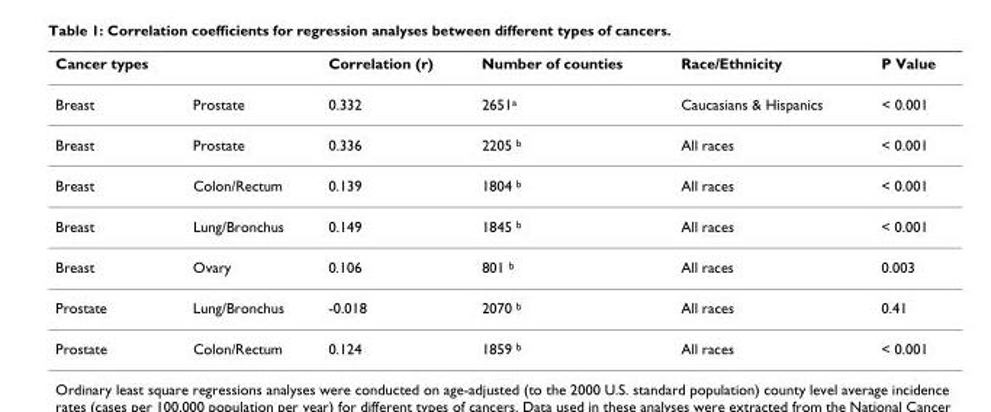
<table><thead><tr><td>Cancer types</td><td></td><td>Correlation (r)</td><td>Number of counties</td><td>Race/Ethnicity</td><td>P Value</td></tr></thead><tbody><tr><td>Breast</td><td>Prostate</td><td>0.332</td><td>2651<sup>a</sup></td><td>Caucasians &amp; Hispanics</td><td>&lt; 0.001</td></tr><tr><td>Breast</td><td>Prostate</td><td>0.336</td><td>2205 <sup>b</sup></td><td>All races</td><td>&lt; 0.001</td></tr><tr><td>Breast</td><td>Colon/Rectum</td><td>0.139</td><td>1804 <sup>b</sup></td><td>All races</td><td>&lt; 0.001</td></tr><tr><td>Breast</td><td>Lung/Bronchus</td><td>0.149</td><td>1845 <sup>b</sup></td><td>All races</td><td>&lt; 0.001</td></tr><tr><td>Breast</td><td>Ovary</td><td>0.106</td><td>801 <sup>b</sup></td><td>All races</td><td>0.003</td></tr><tr><td>Prostate</td><td>Lung/Bronchus</td><td>-0.018</td><td>2070 <sup>b</sup></td><td>All races</td><td>0.41</td></tr><tr><td>Prostate</td><td>Colon/Rectum</td><td>0.124</td><td>1859 <sup>b</sup></td><td>All races</td><td>&lt; 0.001</td></tr></tbody></table>